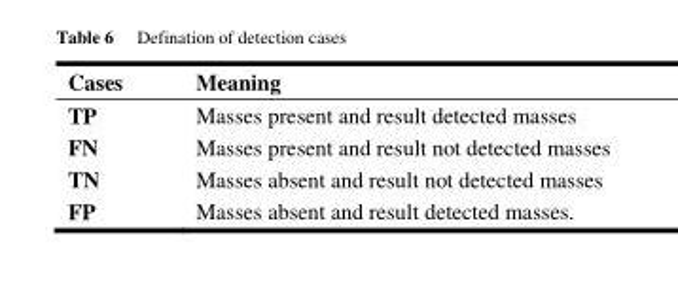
<table><thead><tr><td>Cases</td><td>Meaning</td></tr></thead><tbody><tr><td>TP</td><td>Masses present and result detected masses</td></tr><tr><td>FN</td><td>Masses present and result not detected masses</td></tr><tr><td>TN</td><td>Masses absent and result not detected masses</td></tr><tr><td>FP</td><td>Masses absent and result detected masses.</td></tr></tbody></table>